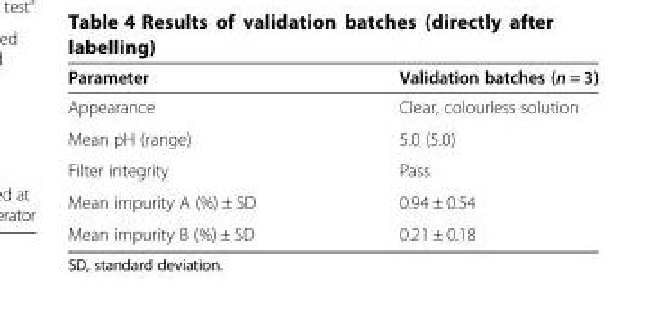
<table><thead><tr><td>Parameter</td><td>Validation batches (n = 3)</td></tr></thead><tbody><tr><td>Appearance</td><td>Clear, colourless solution</td></tr><tr><td>Mean pH (range)</td><td>5.0 (5.0)</td></tr><tr><td>Filter integrity</td><td>Pass</td></tr><tr><td>Mean impurity A (%) ± SD</td><td>0.94 ± 0.54</td></tr><tr><td>Mean impurity B (%) ± SD</td><td>0.21 ± 0.18</td></tr></tbody></table>